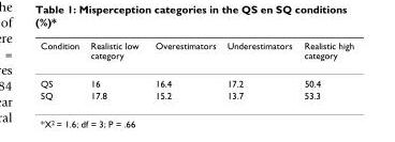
<table><thead><tr><td>Condition</td><td>Realistic low category</td><td>Overestimators</td><td>Underestimators</td><td>Realistic high category</td></tr></thead><tbody><tr><td>QS</td><td>16</td><td>16.4</td><td>17.2</td><td>50.4</td></tr><tr><td>SQ</td><td>17.8</td><td>15.2</td><td>13.7</td><td>53.3</td></tr></tbody></table>